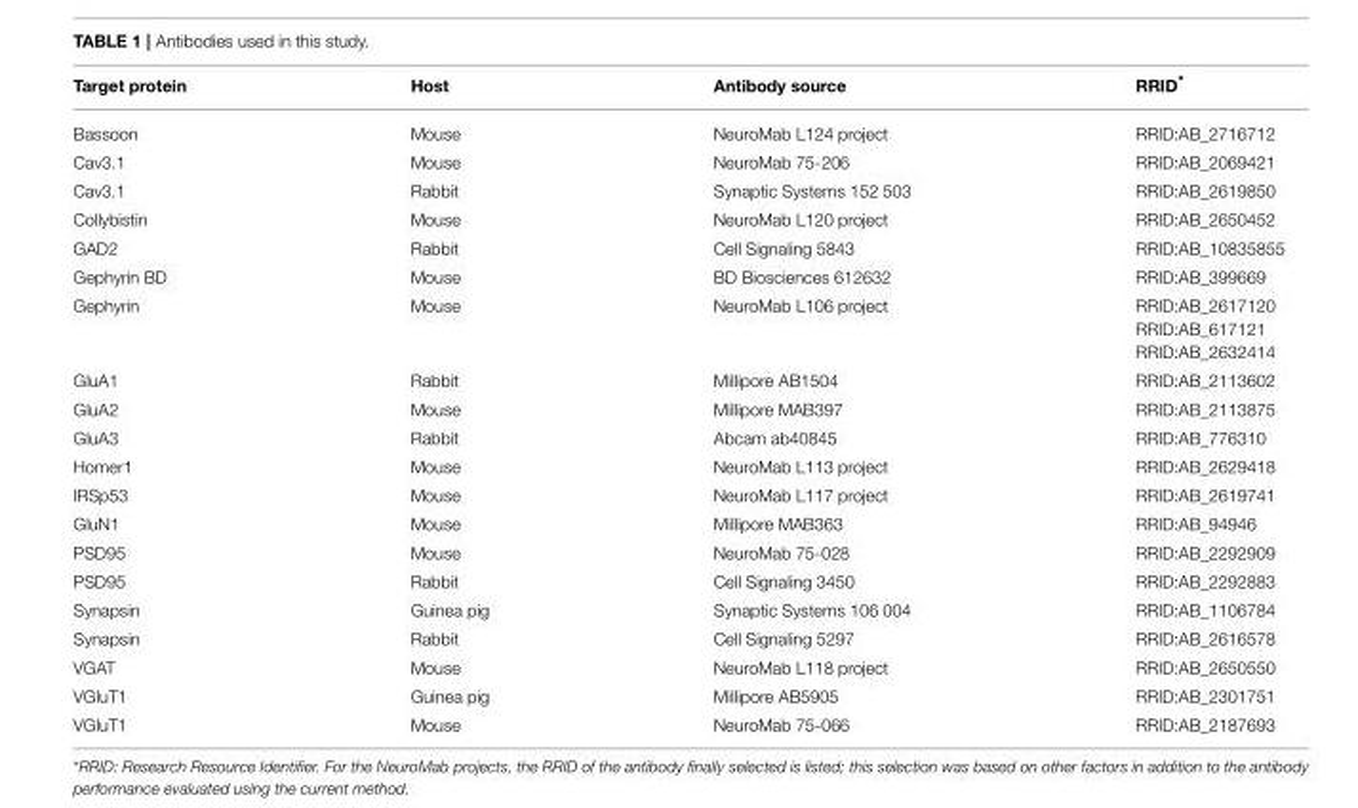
<table><thead><tr><td>Target protein</td><td>Host</td><td>Antibody source</td><td>RRID*</td></tr></thead><tbody><tr><td>Bassoon</td><td>Mouse</td><td>NeuroMab L124 project</td><td>RRID:AB_2716712</td></tr><tr><td>Cav3.1</td><td>Mouse</td><td>NeuroMab 75-206</td><td>RRID:AB_2069421</td></tr><tr><td>Cav3.1</td><td>Rabbit</td><td>Synaptic Systems 152 503</td><td>RRID:AB_2619850</td></tr><tr><td>Collybistin</td><td>Mouse</td><td>NeuroMab L120 project</td><td>RRID:AB_2650452</td></tr><tr><td>GAD2</td><td>Rabbit</td><td>Cell Signaling 5843</td><td>RRID:AB_10835855</td></tr><tr><td>Gephyrin BD</td><td>Mouse</td><td>BD Biosciences 612632</td><td>RRID:AB_399669</td></tr><tr><td>Gephyrin</td><td>Mouse</td><td>NeuroMab L106 project</td><td>RRID:AB_2617120 RRID:AB_617121 RRID:AB_2632414</td></tr><tr><td>GluA1</td><td>Rabbit</td><td>Millipore AB1504</td><td>RRID:AB_2113602</td></tr><tr><td>GluA2</td><td>Mouse</td><td>Millipore MAB397</td><td>RRID:AB_2113875</td></tr><tr><td>GluA3</td><td>Rabbit</td><td>Abcam ab40845</td><td>RRID:AB_776310</td></tr><tr><td>Homer1</td><td>Mouse</td><td>NeuroMab L113 project</td><td>RRID:AB_2629418</td></tr><tr><td>IRSp53</td><td>Mouse</td><td>NeuroMab L117 project</td><td>RRID:AB_2619741</td></tr><tr><td>GluN1</td><td>Mouse</td><td>Millipore MAB363</td><td>RRID:AB_94946</td></tr><tr><td>PSD95</td><td>Mouse</td><td>NeuroMab 75-028</td><td>RRID:AB_2292909</td></tr><tr><td>PSD95</td><td>Rabbit</td><td>Cell Signaling 3450</td><td>RRID:AB_2292883</td></tr><tr><td>Synapsin</td><td>Guinea pig</td><td>Synaptic Systems 106 004</td><td>RRID:AB_1106784</td></tr><tr><td>Synapsin</td><td>Rabbit</td><td>Cell Signaling 5297</td><td>RRID:AB_2616578</td></tr><tr><td>VGAT</td><td>Mouse</td><td>NeuroMab L118 project</td><td>RRID:AB_2650550</td></tr><tr><td>VGluT1</td><td>Guinea pig</td><td>Millipore AB5905</td><td>RRID:AB_2301751</td></tr><tr><td>VGluT1</td><td>Mouse</td><td>NeuroMab 75-066</td><td>RRID:AB_2187693</td></tr></tbody></table>